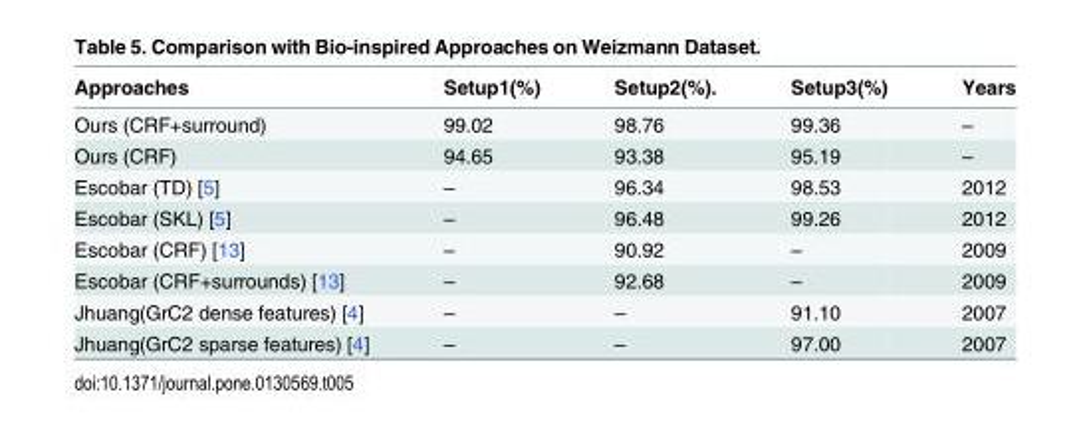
<table><thead><tr><td>Approaches</td><td>Setup1(%)</td><td>Setup2(%).</td><td>Setup3(%)</td><td>Years</td></tr></thead><tbody><tr><td>Ours (CRF+surround)</td><td>99.02</td><td>98.76</td><td>99.36</td><td>–</td></tr><tr><td>Ours (CRF)</td><td>94.65</td><td>93.38</td><td>95.19</td><td>–</td></tr><tr><td>Escobar (TD) [5]</td><td>–</td><td>96.34</td><td>98.53</td><td>2012</td></tr><tr><td>Escobar (SKL) [5]</td><td>–</td><td>96.48</td><td>99.26</td><td>2012</td></tr><tr><td>Escobar (CRF) [13]</td><td>–</td><td>90.92</td><td>–</td><td>2009</td></tr><tr><td>Escobar (CRF+surrounds) [13]</td><td>–</td><td>92.68</td><td>–</td><td>2009</td></tr><tr><td>Jhuang(GrC2 dense features) [4]</td><td>–</td><td>–</td><td>91.10</td><td>2007</td></tr><tr><td>Jhuang(GrC2 sparse features) [4]</td><td>–</td><td>–</td><td>97.00</td><td>2007</td></tr></tbody></table>